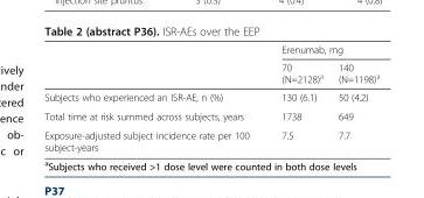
<table><thead><tr><td rowspan="2"></td><td colspan="2">Erenumab, mg</td></tr><tr><td>70 (N=2128)<sup>a</sup></td><td>140 (N=1198)<sup>a</sup></td></tr></thead><tbody><tr><td>Subjects who experienced an ISR-AE, n (%)</td><td>130 (6.1)</td><td>50 (4.2)</td></tr><tr><td>Total time at risk summed across subjects, years</td><td>1738</td><td>649</td></tr><tr><td>Exposure-adjusted subject incidence rate per 100 subject-years</td><td>7.5</td><td>7.7</td></tr></tbody></table>